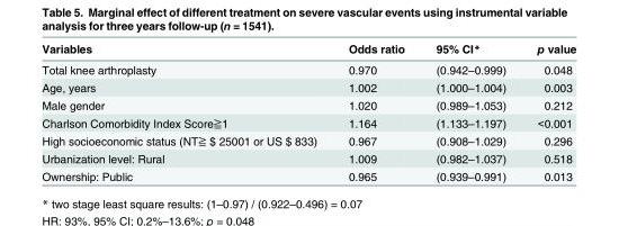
<table><thead><tr><td>Variables</td><td>Odds ratio</td><td>95% CI*</td><td>p value</td></tr></thead><tbody><tr><td>Total knee arthroplasty</td><td>0.970</td><td>(0.942–0.999)</td><td>0.048</td></tr><tr><td>Age, years</td><td>1.002</td><td>(1.000–1.004)</td><td>0.003</td></tr><tr><td>Male gender</td><td>1.020</td><td>(0.989–1.053)</td><td>0.212</td></tr><tr><td>Charlson Comorbidity Index Score≧1</td><td>1.164</td><td>(1.133–1.197)</td><td>&lt;0.001</td></tr><tr><td>High socioeconomic status (NT≧ $ 25001 or US $ 833)</td><td>0.967</td><td>(0.908–1.029)</td><td>0.296</td></tr><tr><td>Urbanization level: Rural</td><td>1.009</td><td>(0.982–1.037)</td><td>0.518</td></tr><tr><td>Ownership: Public</td><td>0.965</td><td>(0.939–0.991)</td><td>0.013</td></tr></tbody></table>